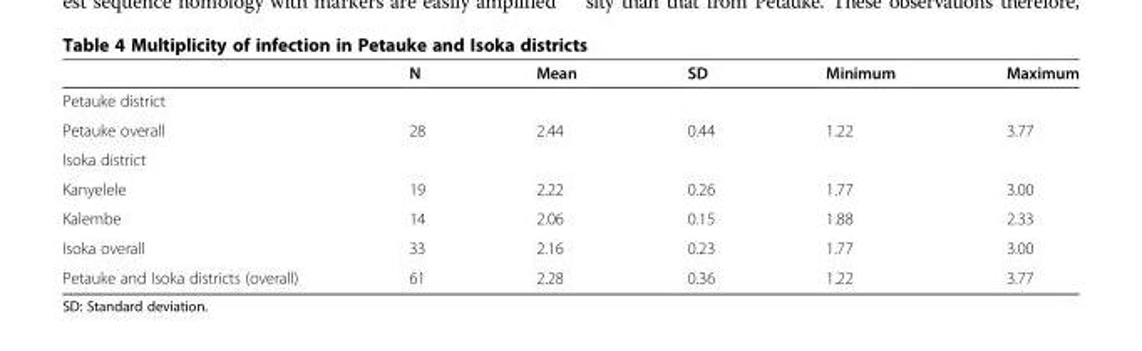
<table><thead><tr><td></td><td>N</td><td>Mean</td><td>SD</td><td>Minimum</td><td>Maximum</td></tr></thead><tbody><tr><td colspan="6">Petauke district</td></tr><tr><td>Petauke overall</td><td>28</td><td>2.44</td><td>0.44</td><td>1.22</td><td>3.77</td></tr><tr><td colspan="6">Isoka district</td></tr><tr><td>Kanyelele</td><td>19</td><td>2.22</td><td>0.26</td><td>1.77</td><td>3.00</td></tr><tr><td>Kalembe</td><td>14</td><td>2.06</td><td>0.15</td><td>1.88</td><td>2.33</td></tr><tr><td>Isoka overall</td><td>33</td><td>2.16</td><td>0.23</td><td>1.77</td><td>3.00</td></tr><tr><td>Petauke and Isoka districts (overall)</td><td>61</td><td>2.28</td><td>0.36</td><td>1.22</td><td>3.77</td></tr></tbody></table>